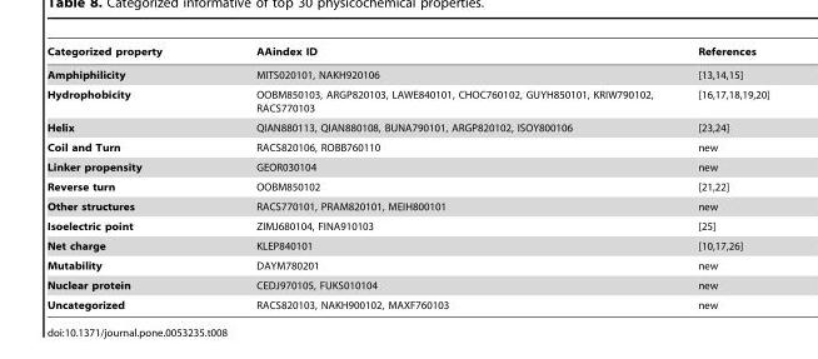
<table><thead><tr><td>Categorized property</td><td>AAindex ID</td><td>References</td></tr></thead><tbody><tr><td>Amphiphilicity</td><td>MITS020101, NAKH920106</td><td>[13,14,15]</td></tr><tr><td>Hydrophobicity</td><td>OOBM850103, ARGP820103, LAWE840101, CHOC760102, GUYH850101, KRIW790102, RACS770103</td><td>[16,17,18,19,20]</td></tr><tr><td>Helix</td><td>QIAN880113, QIAN880108, BUNA790101, ARGP820102, ISOY800106</td><td>[23,24]</td></tr><tr><td>Coil and Turn</td><td>RACS820106, ROBB760110</td><td>new</td></tr><tr><td>Linker propensity</td><td>GEOR030104</td><td>new</td></tr><tr><td>Reverse turn</td><td>OOBM850102</td><td>[21,22]</td></tr><tr><td>Other structures</td><td>RACS770101, PRAM820101, MEIH800101</td><td>new</td></tr><tr><td>Isoelectric point</td><td>ZIMJ680104, FINA910103</td><td>[25]</td></tr><tr><td>Net charge</td><td>KLEP840101</td><td>[10,17,26]</td></tr><tr><td>Mutability</td><td>DAYM780201</td><td>new</td></tr><tr><td>Nuclear protein</td><td>CEDJ970105, FUKS010104</td><td>new</td></tr><tr><td>Uncategorized</td><td>RACS820103, NAKH900102, MAXF760103</td><td>new</td></tr></tbody></table>